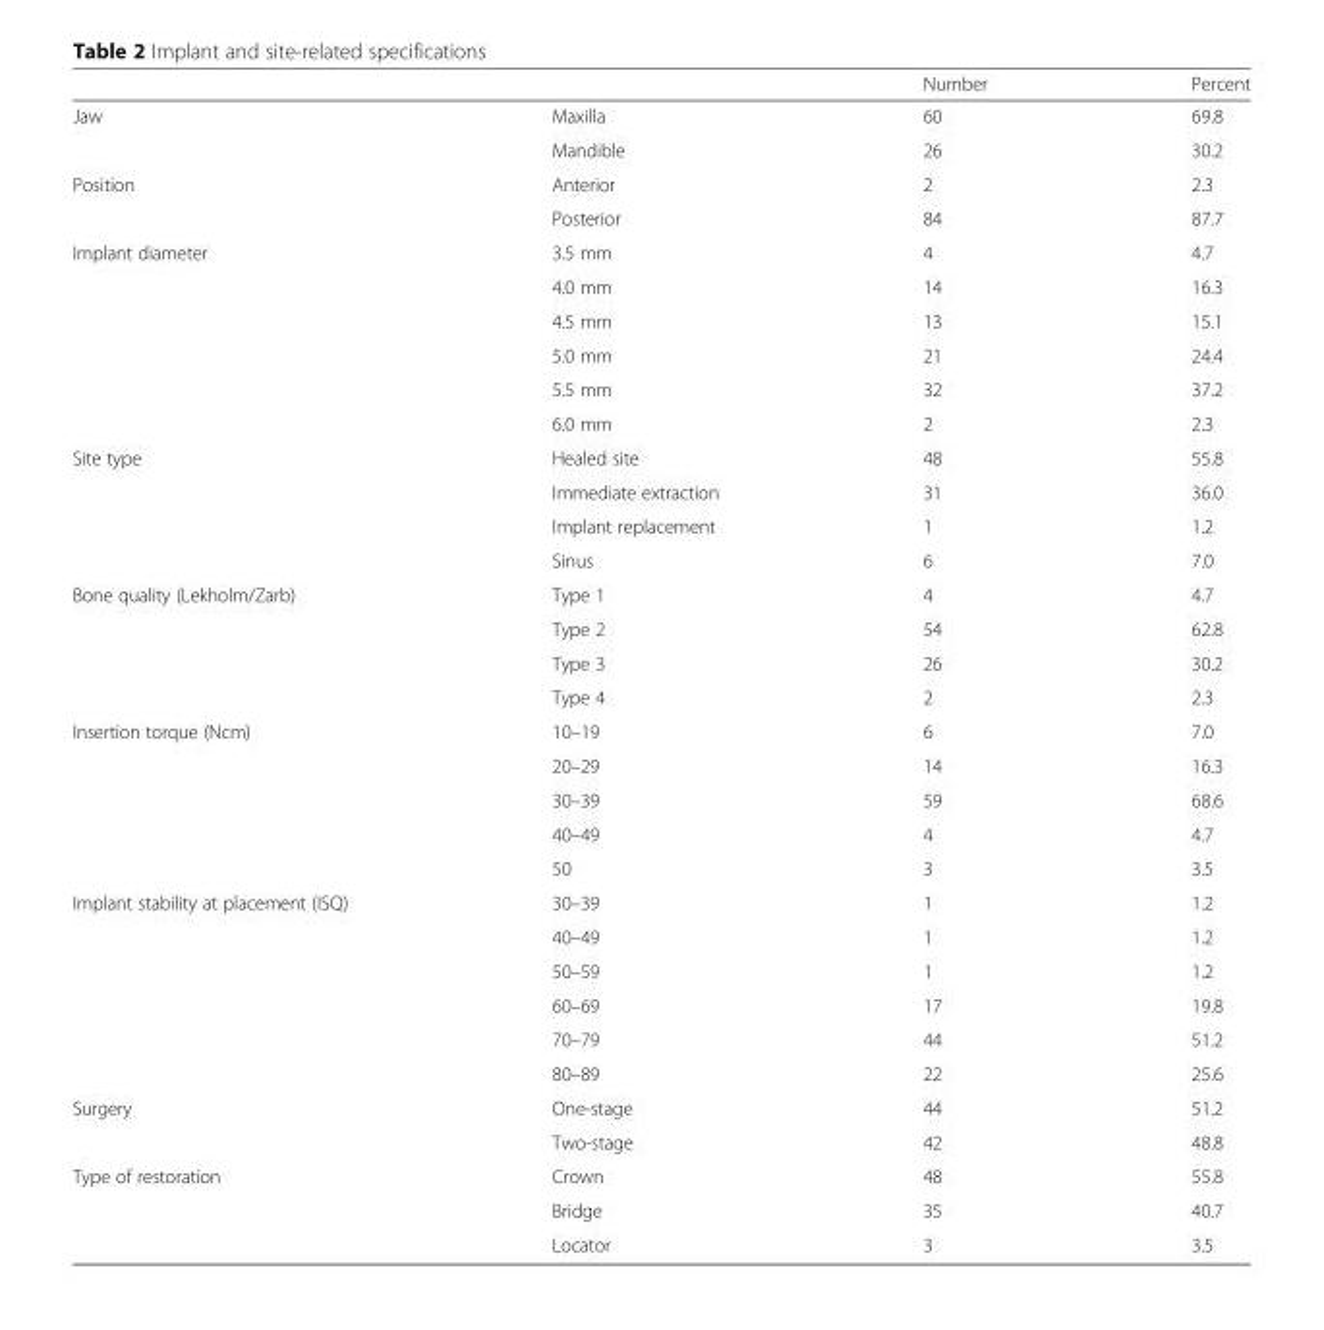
<table><thead><tr><td></td><td></td><td>Number</td><td>Percent</td></tr></thead><tbody><tr><td rowspan="2">Jaw</td><td>Maxilla</td><td>60</td><td>69.8</td></tr><tr><td>Mandible</td><td>26</td><td>30.2</td></tr><tr><td rowspan="2">Position</td><td>Anterior</td><td>2</td><td>2.3</td></tr><tr><td>Posterior</td><td>84</td><td>87.7</td></tr><tr><td rowspan="6">Implant diameter</td><td>3.5 mm</td><td>4</td><td>4.7</td></tr><tr><td>4.0 mm</td><td>14</td><td>16.3</td></tr><tr><td>4.5 mm</td><td>13</td><td>15.1</td></tr><tr><td>5.0 mm</td><td>21</td><td>24.4</td></tr><tr><td>5.5 mm</td><td>32</td><td>37.2</td></tr><tr><td>6.0 mm</td><td>2</td><td>2.3</td></tr><tr><td rowspan="4">Site type</td><td>Healed site</td><td>48</td><td>55.8</td></tr><tr><td>Immediate extraction</td><td>31</td><td>36.0</td></tr><tr><td>Implant replacement</td><td>1</td><td>1.2</td></tr><tr><td>Sinus</td><td>6</td><td>7.0</td></tr><tr><td rowspan="4">Bone quality (Lekholm/Zarb)</td><td>Type 1</td><td>4</td><td>4.7</td></tr><tr><td>Type 2</td><td>54</td><td>62.8</td></tr><tr><td>Type 3</td><td>26</td><td>30.2</td></tr><tr><td>Type 4</td><td>2</td><td>2.3</td></tr><tr><td rowspan="5">Insertion torque (Ncm)</td><td>10–19</td><td>6</td><td>7.0</td></tr><tr><td>20–29</td><td>14</td><td>16.3</td></tr><tr><td>30–39</td><td>59</td><td>68.6</td></tr><tr><td>40–49</td><td>4</td><td>4.7</td></tr><tr><td>50</td><td>3</td><td>3.5</td></tr><tr><td rowspan="6">Implant stability at placement (ISQ)</td><td>30–39</td><td>1</td><td>1.2</td></tr><tr><td>40–49</td><td>1</td><td>1.2</td></tr><tr><td>50–59</td><td>1</td><td>1.2</td></tr><tr><td>60–69</td><td>17</td><td>19.8</td></tr><tr><td>70–79</td><td>44</td><td>51.2</td></tr><tr><td>80–89</td><td>22</td><td>25.6</td></tr><tr><td rowspan="2">Surgery</td><td>One-stage</td><td>44</td><td>51.2</td></tr><tr><td>Two-stage</td><td>42</td><td>48.8</td></tr><tr><td rowspan="3">Type of restoration</td><td>Crown</td><td>48</td><td>55.8</td></tr><tr><td>Bridge</td><td>35</td><td>40.7</td></tr><tr><td>Locator</td><td>3</td><td>3.5</td></tr></tbody></table>